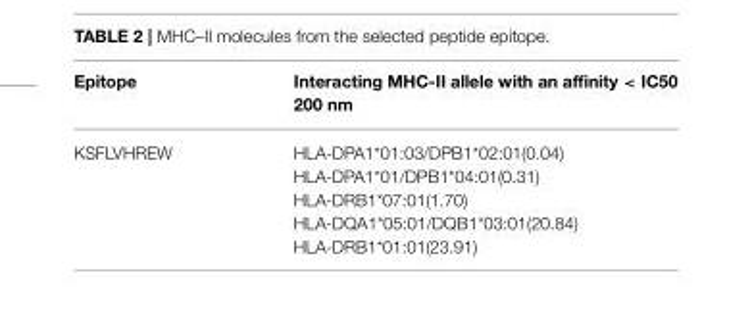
<table><thead><tr><td>Epitope</td><td>Interacting MHC-II allele with an affinity &lt; IC50 200 nm</td></tr></thead><tbody><tr><td>KSFLVHREW</td><td>HLA-DPA1*01:03/DPB1*02:01(0.04) HLA-DPA1*01/DPB1*04:01(0.31) HLA-DRB1*07:01(1.70) HLA-DQA1*05:01/DQB1*03:01(20.84) HLA-DRB1*01:01(23.91)</td></tr></tbody></table>